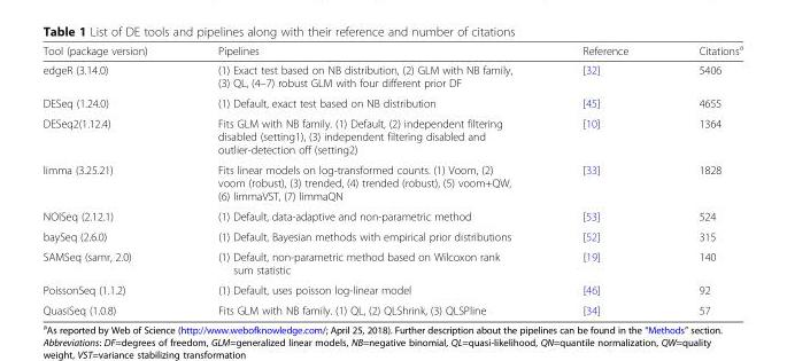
<table><thead><tr><td>Tool (package version)</td><td>Pipelines</td><td>Reference</td><td>Citations<sup>a</sup></td></tr></thead><tbody><tr><td>edgeR (3.14.0)</td><td>(1) Exact test based on NB distribution, (2) GLM with NB family, (3) QL, (4–7) robust GLM with four different prior DF</td><td>[32]</td><td>5406</td></tr><tr><td>DESeq (1.24.0)</td><td>(1) Default, exact test based on NB distribution</td><td>[45]</td><td>4655</td></tr><tr><td>DESeq2(1.12.4)</td><td>Fits GLM with NB family. (1) Default, (2) independent filtering disabled (setting1), (3) independent filtering disabled and outlier-detection off (setting2)</td><td>[10]</td><td>1364</td></tr><tr><td>limma (3.25.21)</td><td>Fits linear models on log-transformed counts. (1) Voom, (2) voom (robust), (3) trended, (4) trended (robust), (5) voom+QW, (6) limmaVST, (7) limmaQN</td><td>[33]</td><td>1828</td></tr><tr><td>NOISeq (2.12.1)</td><td>(1) Default, data-adaptive and non-parametric method</td><td>[53]</td><td>524</td></tr><tr><td>baySeq (2.6.0)</td><td>(1) Default, Bayesian methods with empirical prior distributions</td><td>[52]</td><td>315</td></tr><tr><td>SAMSeq (samr, 2.0)</td><td>(1) Default, non-parametric method based on Wilcoxon rank sum statistic</td><td>[19]</td><td>140</td></tr><tr><td>PoissonSeq (1.1.2)</td><td>(1) Default, uses poisson log-linear model</td><td>[46]</td><td>92</td></tr><tr><td>QuasiSeq (1.0.8)</td><td>Fits GLM with NB family. (1) QL, (2) QLShrink, (3) QLSPline</td><td>[34]</td><td>57</td></tr></tbody></table>